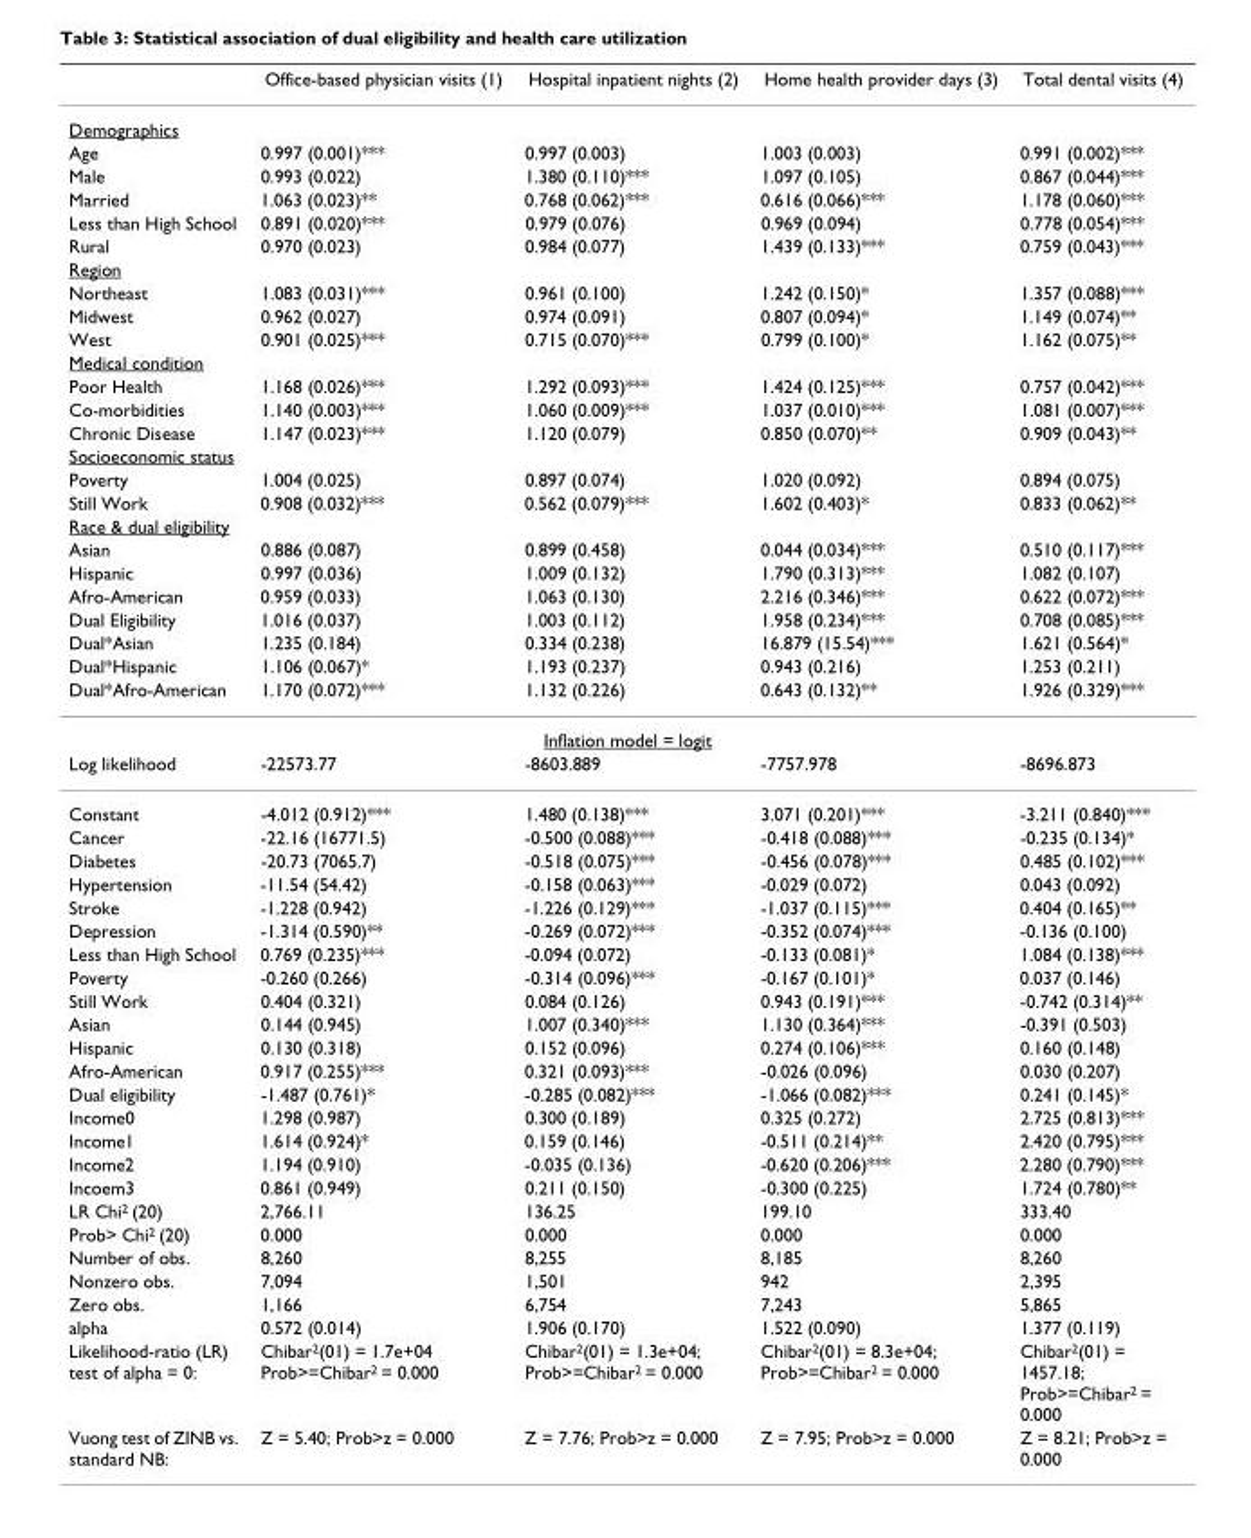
<table><thead><tr><td></td><td>Office-based physician visits (1)</td><td>Hospital inpatient nights (2)</td><td>Home health provider days (3)</td><td>Total dental visits (4)</td></tr></thead><tbody><tr><td colspan="5">Demographics</td></tr><tr><td>Age</td><td>0.997 (0.001)***</td><td>0.997 (0.003)</td><td>1.003 (0.003)</td><td>0.991 (0.002)***</td></tr><tr><td>Male</td><td>0.993 (0.022)</td><td>1.380 (0.110)***</td><td>1.097 (0.105)</td><td>0.867 (0.044)***</td></tr><tr><td>Married</td><td>1.063 (0.023)**</td><td>0.768 (0.062)***</td><td>0.616 (0.066)***</td><td>1.178 (0.060)***</td></tr><tr><td>Less than High School</td><td>0.891 (0.020)***</td><td>0.979 (0.076)</td><td>0.969 (0.094)</td><td>0.778 (0.054)***</td></tr><tr><td>Rural</td><td>0.970 (0.023)</td><td>0.984 (0.077)</td><td>1.439 (0.133)***</td><td>0.759 (0.043)***</td></tr><tr><td colspan="5">Region</td></tr><tr><td>Northeast</td><td>1.083 (0.031)***</td><td>0.961 (0.100)</td><td>1.242 (0.150)*</td><td>1.357 (0.088)***</td></tr><tr><td>Midwest</td><td>0.962 (0.027)</td><td>0.974 (0.091)</td><td>0.807 (0.094)*</td><td>1.149 (0.074)**</td></tr><tr><td>West</td><td>0.901 (0.025)***</td><td>0.715 (0.070)***</td><td>0.799 (0.100)*</td><td>1.162 (0.075)**</td></tr><tr><td colspan="5">Medical condition</td></tr><tr><td>Poor Health</td><td>1.168 (0.026)***</td><td>1.292 (0.093)***</td><td>1.424 (0.125)***</td><td>0.757 (0.042)***</td></tr><tr><td>Co-morbidities</td><td>1.140 (0.003)***</td><td>1.060 (0.009)***</td><td>1.037 (0.010)***</td><td>1.081 (0.007)***</td></tr><tr><td>Chronic Disease</td><td>1.147 (0.023)***</td><td>1.120 (0.079)</td><td>0.850 (0.070)**</td><td>0.909 (0.043)**</td></tr><tr><td colspan="5">Socioeconomic status</td></tr><tr><td>Poverty</td><td>1.004 (0.025)</td><td>0.897 (0.074)</td><td>1.020 (0.092)</td><td>0.894 (0.075)</td></tr><tr><td>Still Work</td><td>0.908 (0.032)***</td><td>0.562 (0.079)***</td><td>1.602 (0.403)*</td><td>0.833 (0.062)**</td></tr><tr><td colspan="5">Race &amp; dual eligibility</td></tr><tr><td>Asian</td><td>0.886 (0.087)</td><td>0.899 (0.458)</td><td>0.044 (0.034)***</td><td>0.510 (0.117)***</td></tr><tr><td>Hispanic</td><td>0.997 (0.036)</td><td>1.009 (0.132)</td><td>1.790 (0.313)***</td><td>1.082 (0.107)</td></tr><tr><td>Afro-American</td><td>0.959 (0.033)</td><td>1.063 (0.130)</td><td>2.216 (0.346)***</td><td>0.622 (0.072)***</td></tr><tr><td>Dual Eligibility</td><td>1.016 (0.037)</td><td>1.003 (0.112)</td><td>1.958 (0.234)***</td><td>0.708 (0.085)***</td></tr><tr><td>Dual*Asian</td><td>1.235 (0.184)</td><td>0.334 (0.238)</td><td>16.879 (15.54)***</td><td>1.621 (0.564)*</td></tr><tr><td>Dual*Hispanic</td><td>1.106 (0.067)*</td><td>1.193 (0.237)</td><td>0.943 (0.216)</td><td>1.253 (0.211)</td></tr><tr><td>Dual*Afro-American</td><td>1.170 (0.072)***</td><td>1.132 (0.226)</td><td>0.643 (0.132)**</td><td>1.926 (0.329)***</td></tr><tr><td colspan="5">Inflation model = logit</td></tr><tr><td>Log likelihood</td><td>-22573.77</td><td>-8603.889</td><td>-7757.978</td><td>-8696.873</td></tr><tr><td>Constant</td><td>-4.012 (0.912)***</td><td>1.480 (0.138)***</td><td>3.071 (0.201)***</td><td>-3.211 (0.840)***</td></tr><tr><td>Cancer</td><td>-22.16 (16771.5)</td><td>-0.500 (0.088)***</td><td>-0.418 (0.088)***</td><td>-0.235 (0.134)*</td></tr><tr><td>Diabetes</td><td>-20.73 (7065.7)</td><td>-0.518 (0.075)***</td><td>-0.456 (0.078)***</td><td>0.485 (0.102)***</td></tr><tr><td>Hypertension</td><td>-11.54 (54.42)</td><td>-0.158 (0.063)***</td><td>-0.029 (0.072)</td><td>0.043 (0.092)</td></tr><tr><td>Stroke</td><td>-1.228 (0.942)</td><td>-1.226 (0.129)***</td><td>-1.037 (0.115)***</td><td>0.404 (0.165)**</td></tr><tr><td>Depression</td><td>-1.314 (0.590)**</td><td>-0.269 (0.072)***</td><td>-0.352 (0.074)***</td><td>-0.136 (0.100)</td></tr><tr><td>Less than High School</td><td>0.769 (0.235)***</td><td>-0.094 (0.072)</td><td>-0.133 (0.081)*</td><td>1.084 (0.138)***</td></tr><tr><td>Poverty</td><td>-0.260 (0.266)</td><td>-0.314 (0.096)***</td><td>-0.167 (0.101)*</td><td>0.037 (0.146)</td></tr><tr><td>Still Work</td><td>0.404 (0.321)</td><td>0.084 (0.126)</td><td>0.943 (0.191)***</td><td>-0.742 (0.314)**</td></tr><tr><td>Asian</td><td>0.144 (0.945)</td><td>1.007 (0.340)***</td><td>1.130 (0.364)***</td><td>-0.391 (0.503)</td></tr><tr><td>Hispanic</td><td>0.130 (0.318)</td><td>0.152 (0.096)</td><td>0.274 (0.106)***</td><td>0.160 (0.148)</td></tr><tr><td>Afro-American</td><td>0.917 (0.255)***</td><td>0.321 (0.093)***</td><td>-0.026 (0.096)</td><td>0.030 (0.207)</td></tr><tr><td>Dual eligibility</td><td>-1.487 (0.761)*</td><td>-0.285 (0.082)***</td><td>-1.066 (0.082)***</td><td>0.241 (0.145)*</td></tr><tr><td>Income0</td><td>1.298 (0.987)</td><td>0.300 (0.189)</td><td>0.325 (0.272)</td><td>2.725 (0.813)***</td></tr><tr><td>Income1</td><td>1.614 (0.924)*</td><td>0.159 (0.146)</td><td>-0.511 (0.214)**</td><td>2.420 (0.795)***</td></tr><tr><td>Income2</td><td>1.194 (0.910)</td><td>-0.035 (0.136)</td><td>-0.620 (0.206)***</td><td>2.280 (0.790)***</td></tr><tr><td>Incoem3</td><td>0.861 (0.949)</td><td>0.211 (0.150)</td><td>-0.300 (0.225)</td><td>1.724 (0.780)**</td></tr><tr><td>LR Chi2 (20)</td><td>2,766.11</td><td>136.25</td><td>199.10</td><td>333.40</td></tr><tr><td>Prob&gt; Chi2 (20)</td><td>0.000</td><td>0.000</td><td>0.000</td><td>0.000</td></tr><tr><td>Number of obs.</td><td>8,260</td><td>8,255</td><td>8,185</td><td>8,260</td></tr><tr><td>Nonzero obs.</td><td>7,094</td><td>1,501</td><td>942</td><td>2,395</td></tr><tr><td>Zero obs.</td><td>1,166</td><td>6,754</td><td>7,243</td><td>5,865</td></tr><tr><td>alpha</td><td>0.572 (0.014)</td><td>1.906 (0.170)</td><td>1.522 (0.090)</td><td>1.377 (0.119)</td></tr><tr><td>Likelihood-ratio (LR) test of alpha = 0:</td><td>Chibar2(01) = 1.7e+04 Prob&gt;=Chibar2 = 0.000</td><td>Chibar2(01) = 1.3e+04; Prob&gt;=Chibar2 = 0.000</td><td>Chibar2(01) = 8.3e+04; Prob&gt;=Chibar2 = 0.000</td><td>Chibar2(01) = 1457.18; Prob&gt;=Chibar2 = 0.000</td></tr><tr><td>Vuong test of ZINB vs. standard NB:</td><td>Z = 5.40; Prob&gt;z = 0.000</td><td>Z = 7.76; Prob&gt;z = 0.000</td><td>Z = 7.95; Prob&gt;z = 0.000</td><td>Z = 8.21; Prob&gt;z = 0.000</td></tr></tbody></table>